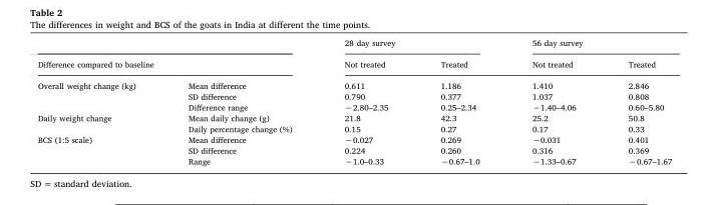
<table><thead><tr><td></td><td></td><td colspan="2">28 day survey</td><td colspan="2">56 day survey</td></tr><tr><td colspan="2">Difference compared to baseline</td><td>Not treated</td><td>Treated</td><td>Not treated</td><td>Treated</td></tr></thead><tbody><tr><td rowspan="3">Overall weight change (kg)</td><td>Mean difference</td><td>0.611</td><td>1.186</td><td>1.410</td><td>2.846</td></tr><tr><td>SD difference</td><td>0.790</td><td>0.377</td><td>1.037</td><td>0.808</td></tr><tr><td>Difference range</td><td>−2.80–2.35</td><td>0.25–2.34</td><td>−1.40–4.06</td><td>0.60–5.80</td></tr><tr><td rowspan="2">Daily weight change</td><td>Mean daily change (g)</td><td>21.8</td><td>42.3</td><td>25.2</td><td>50.8</td></tr><tr><td>Daily percentage change (%)</td><td>0.15</td><td>0.27</td><td>0.17</td><td>0.33</td></tr><tr><td rowspan="3">BCS (1:5 scale)</td><td>Mean difference</td><td>−0.027</td><td>0.269</td><td>−0.031</td><td>0.401</td></tr><tr><td>SD difference</td><td>0.224</td><td>0.260</td><td>0.316</td><td>0.369</td></tr><tr><td>Range</td><td>−1.0–0.33</td><td>−0.67–1.0</td><td>−1.33–0.67</td><td>−0.67–1.67</td></tr></tbody></table>